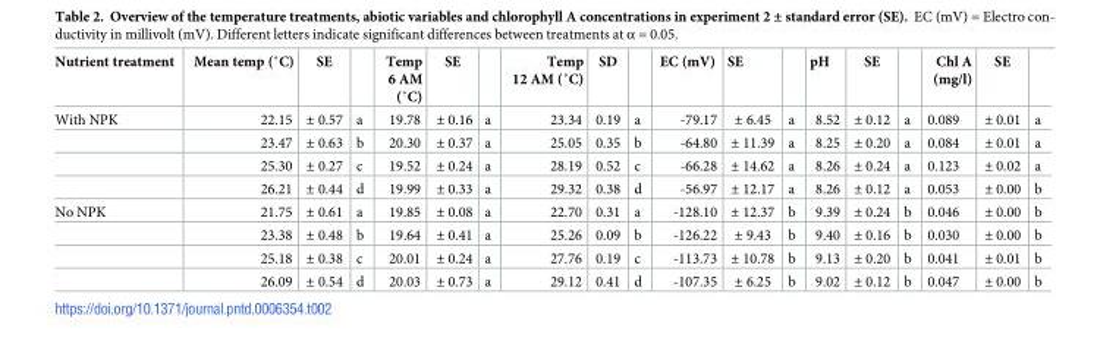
<table><thead><tr><td>Nutrient treatment</td><td>Mean temp (˚C)</td><td>SE</td><td></td><td>Temp 6 AM (˚C)</td><td>SE</td><td></td><td>Temp 12 AM (˚C)</td><td>SD</td><td></td><td>EC (mV)</td><td>SE</td><td></td><td>pH</td><td>SE</td><td></td><td>Chl A (mg/l)</td><td>SE</td><td></td></tr></thead><tbody><tr><td rowspan="4">With NPK</td><td>22.15</td><td>± 0.57</td><td>a</td><td>19.78</td><td>± 0.16</td><td>a</td><td>23.34</td><td>0.19</td><td>a</td><td>-79.17</td><td>± 6.45</td><td>a</td><td>8.52</td><td>± 0.12</td><td>a</td><td>0.089</td><td>± 0.01</td><td>a</td></tr><tr><td>23.47</td><td>± 0.63</td><td>b</td><td>20.30</td><td>± 0.37</td><td>a</td><td>25.05</td><td>0.35</td><td>b</td><td>-64.80</td><td>± 11.39</td><td>a</td><td>8.25</td><td>± 0.20</td><td>a</td><td>0.084</td><td>± 0.01</td><td>a</td></tr><tr><td>25.30</td><td>± 0.27</td><td>c</td><td>19.52</td><td>± 0.24</td><td>a</td><td>28.19</td><td>0.52</td><td>c</td><td>-66.28</td><td>± 14.62</td><td>a</td><td>8.26</td><td>± 0.24</td><td>a</td><td>0.123</td><td>± 0.02</td><td>a</td></tr><tr><td>26.21</td><td>± 0.44</td><td>d</td><td>19.99</td><td>± 0.33</td><td>a</td><td>29.32</td><td>0.38</td><td>d</td><td>-56.97</td><td>± 12.17</td><td>a</td><td>8.26</td><td>± 0.12</td><td>a</td><td>0.053</td><td>± 0.00</td><td>b</td></tr><tr><td rowspan="4">No NPK</td><td>21.75</td><td>± 0.61</td><td>a</td><td>19.85</td><td>± 0.08</td><td>a</td><td>22.70</td><td>0.31</td><td>a</td><td>-128.10</td><td>± 12.37</td><td>b</td><td>9.39</td><td>± 0.24</td><td>b</td><td>0.046</td><td>± 0.00</td><td>b</td></tr><tr><td>23.38</td><td>± 0.48</td><td>b</td><td>19.64</td><td>± 0.41</td><td>a</td><td>25.26</td><td>0.09</td><td>b</td><td>-126.22</td><td>± 9.43</td><td>b</td><td>9.40</td><td>± 0.16</td><td>b</td><td>0.030</td><td>± 0.00</td><td>b</td></tr><tr><td>25.18</td><td>± 0.38</td><td>c</td><td>20.01</td><td>± 0.24</td><td>a</td><td>27.76</td><td>0.19</td><td>c</td><td>-113.73</td><td>± 10.78</td><td>b</td><td>9.13</td><td>± 0.20</td><td>b</td><td>0.041</td><td>± 0.01</td><td>b</td></tr><tr><td>26.09</td><td>± 0.54</td><td>d</td><td>20.03</td><td>± 0.73</td><td>a</td><td>29.12</td><td>0.41</td><td>d</td><td>-107.35</td><td>± 6.25</td><td>b</td><td>9.02</td><td>± 0.12</td><td>b</td><td>0.047</td><td>± 0.00</td><td>b</td></tr></tbody></table>